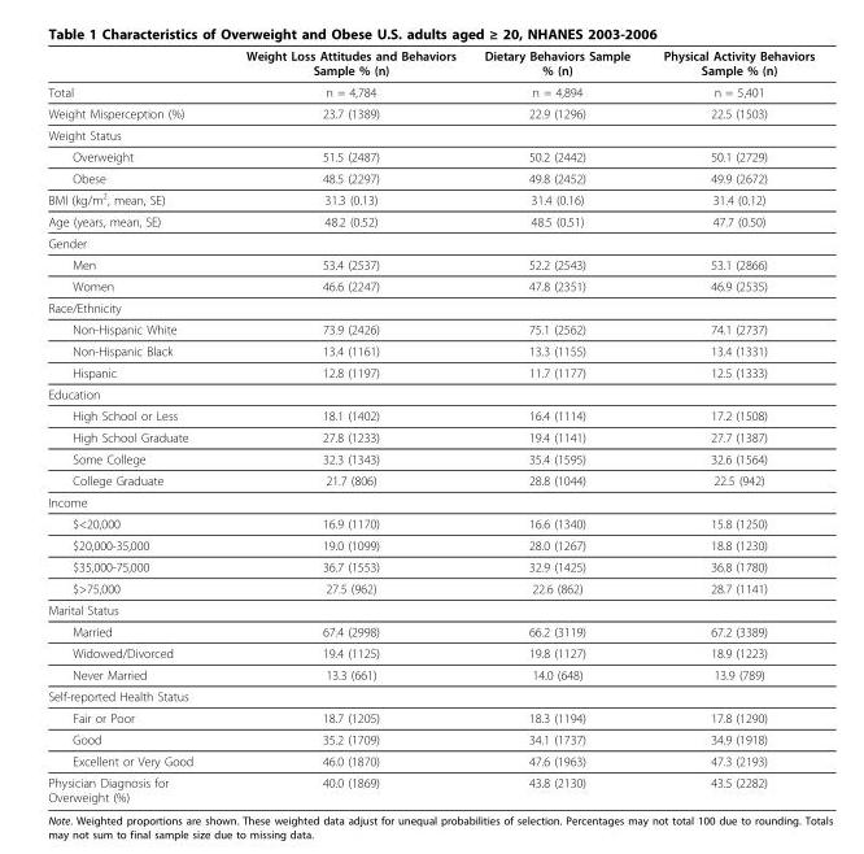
<table><thead><tr><td></td><td>Weight Loss Attitudes and Behaviors Sample % (n)</td><td>Dietary Behaviors Sample % (n)</td><td>Physical Activity Behaviors Sample % (n)</td></tr></thead><tbody><tr><td>Total</td><td>n = 4,784</td><td>n = 4,894</td><td>n = 5,401</td></tr><tr><td>Weight Misperception (%)</td><td>23.7 (1389)</td><td>22.9 (1296)</td><td>22.5 (1503)</td></tr><tr><td colspan="4">Weight Status</td></tr><tr><td>Overweight</td><td>51.5 (2487)</td><td>50.2 (2442)</td><td>50.1 (2729)</td></tr><tr><td>Obese</td><td>48.5 (2297)</td><td>49.8 (2452)</td><td>49.9 (2672)</td></tr><tr><td>BMI (kg/m<sup>2</sup>, mean, SE)</td><td>31.3 (0.13)</td><td>31.4 (0.16)</td><td>31.4 (0.12)</td></tr><tr><td>Age (years, mean, SE)</td><td>48.2 (0.52)</td><td>48.5 (0.51)</td><td>47.7 (0.50)</td></tr><tr><td colspan="4">Gender</td></tr><tr><td>Men</td><td>53.4 (2537)</td><td>52.2 (2543)</td><td>53.1 (2866)</td></tr><tr><td>Women</td><td>46.6 (2247)</td><td>47.8 (2351)</td><td>46.9 (2535)</td></tr><tr><td colspan="4">Race/Ethnicity</td></tr><tr><td>Non-Hispanic White</td><td>73.9 (2426)</td><td>75.1 (2562)</td><td>74.1 (2737)</td></tr><tr><td>Non-Hispanic Black</td><td>13.4 (1161)</td><td>13.3 (1155)</td><td>13.4 (1331)</td></tr><tr><td>Hispanic</td><td>12.8 (1197)</td><td>11.7 (1177)</td><td>12.5 (1333)</td></tr><tr><td colspan="4">Education</td></tr><tr><td>High School or Less</td><td>18.1 (1402)</td><td>16.4 (1114)</td><td>17.2 (1508)</td></tr><tr><td>High School Graduate</td><td>27.8 (1233)</td><td>19.4 (1141)</td><td>27.7 (1387)</td></tr><tr><td>Some College</td><td>32.3 (1343)</td><td>35.4 (1595)</td><td>32.6 (1564)</td></tr><tr><td>College Graduate</td><td>21.7 (806)</td><td>28.8 (1044)</td><td>22.5 (942)</td></tr><tr><td colspan="4">Income</td></tr><tr><td>$&lt;20,000</td><td>16.9 (1170)</td><td>16.6 (1340)</td><td>15.8 (1250)</td></tr><tr><td>$20,000-35,000</td><td>19.0 (1099)</td><td>28.0 (1267)</td><td>18.8 (1230)</td></tr><tr><td>$35,000-75,000</td><td>36.7 (1553)</td><td>32.9 (1425)</td><td>36.8 (1780)</td></tr><tr><td>$&gt;75,000</td><td>27.5 (962)</td><td>22.6 (862)</td><td>28.7 (1141)</td></tr><tr><td colspan="4">Marital Status</td></tr><tr><td>Married</td><td>67.4 (2998)</td><td>66.2 (3119)</td><td>67.2 (3389)</td></tr><tr><td>Widowed/Divorced</td><td>19.4 (1125)</td><td>19.8 (1127)</td><td>18.9 (1223)</td></tr><tr><td>Never Married</td><td>13.3 (661)</td><td>14.0 (648)</td><td>13.9 (789)</td></tr><tr><td colspan="4">Self-reported Health Status</td></tr><tr><td>Fair or Poor</td><td>18.7 (1205)</td><td>18.3 (1194)</td><td>17.8 (1290)</td></tr><tr><td>Good</td><td>35.2 (1709)</td><td>34.1 (1737)</td><td>34.9 (1918)</td></tr><tr><td>Excellent or Very Good</td><td>46.0 (1870)</td><td>47.6 (1963)</td><td>47.3 (2193)</td></tr><tr><td>Physician Diagnosis for Overweight (%)</td><td>40.0 (1869)</td><td>43.8 (2130)</td><td>43.5 (2282)</td></tr></tbody></table>